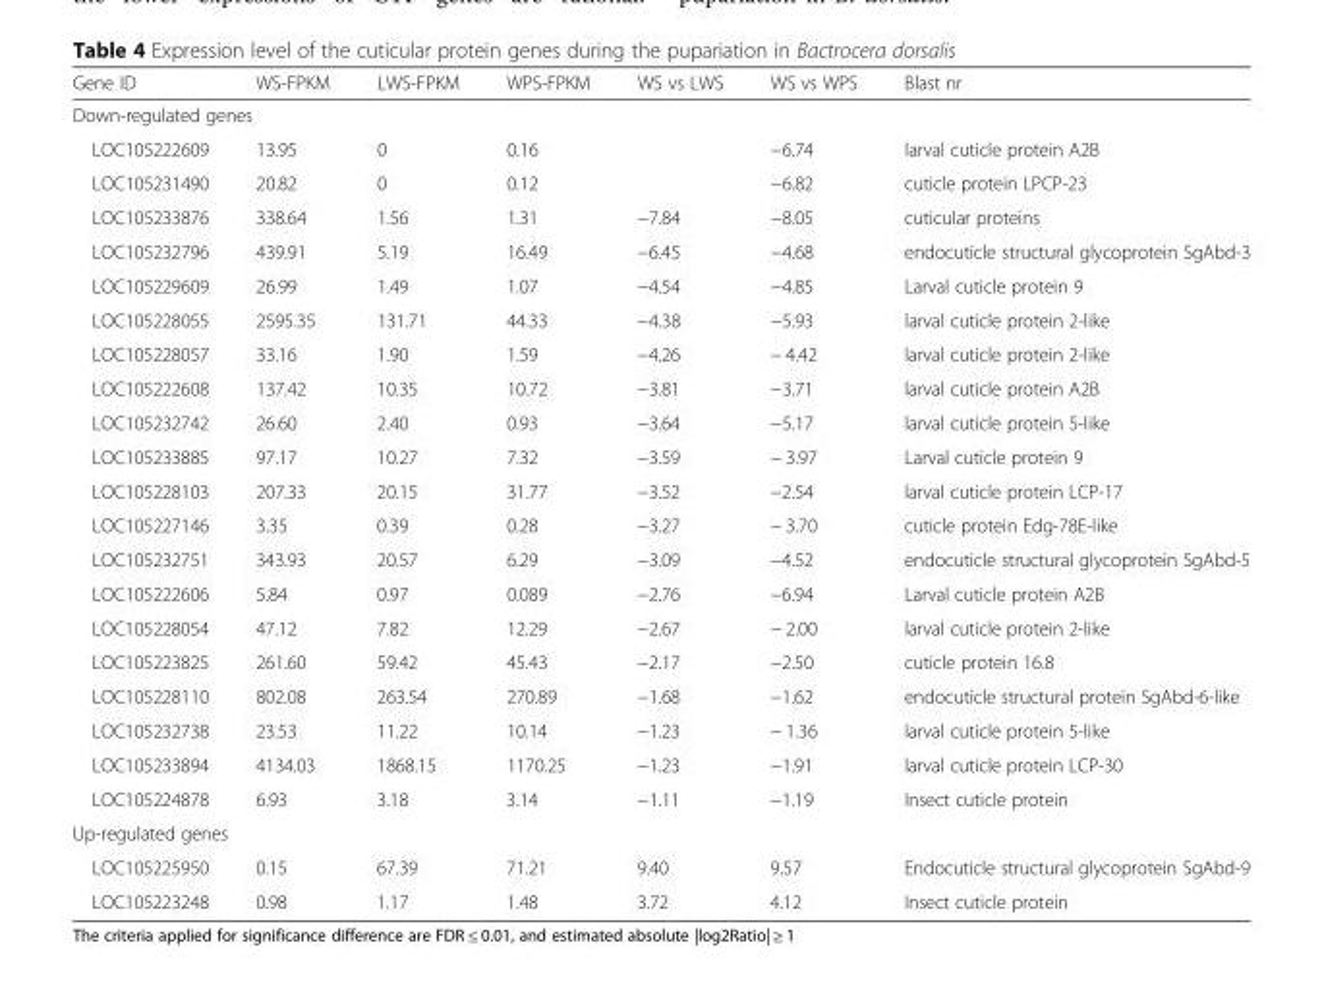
<table><thead><tr><td>Gene ID</td><td>WS-FPKM</td><td>LWS-FPKM</td><td>WPS-FPKM</td><td>WS vs LWS</td><td>WS vs WPS</td><td>Blast nr</td></tr></thead><tbody><tr><td colspan="7">Down-regulated genes</td></tr><tr><td>LOC105222609</td><td>13.95</td><td>0</td><td>0.16</td><td></td><td>−6.74</td><td>larval cuticle protein A2B</td></tr><tr><td>LOC105231490</td><td>20.82</td><td>0</td><td>0.12</td><td></td><td>−6.82</td><td>cuticle protein LPCP-23</td></tr><tr><td>LOC105233876</td><td>338.64</td><td>1.56</td><td>1.31</td><td>−7.84</td><td>−8.05</td><td>cuticular proteins</td></tr><tr><td>LOC105232796</td><td>439.91</td><td>5.19</td><td>16.49</td><td>−6.45</td><td>−4.68</td><td>endocuticle structural glycoprotein SgAbd-3</td></tr><tr><td>LOC105229609</td><td>26.99</td><td>1.49</td><td>1.07</td><td>−4.54</td><td>−4.85</td><td>Larval cuticle protein 9</td></tr><tr><td>LOC105228055</td><td>2595.35</td><td>131.71</td><td>44.33</td><td>−4.38</td><td>−5.93</td><td>larval cuticle protein 2-like</td></tr><tr><td>LOC105228057</td><td>33.16</td><td>1.90</td><td>1.59</td><td>−4.26</td><td>− 4.42</td><td>larval cuticle protein 2-like</td></tr><tr><td>LOC105222608</td><td>137.42</td><td>10.35</td><td>10.72</td><td>−3.81</td><td>−3.71</td><td>larval cuticle protein A2B</td></tr><tr><td>LOC105232742</td><td>26.60</td><td>2.40</td><td>0.93</td><td>−3.64</td><td>−5.17</td><td>larval cuticle protein 5-like</td></tr><tr><td>LOC105233885</td><td>97.17</td><td>10.27</td><td>7.32</td><td>−3.59</td><td>− 3.97</td><td>Larval cuticle protein 9</td></tr><tr><td>LOC105228103</td><td>207.33</td><td>20.15</td><td>31.77</td><td>−3.52</td><td>−2.54</td><td>larval cuticle protein LCP-17</td></tr><tr><td>LOC105227146</td><td>3.35</td><td>0.39</td><td>0.28</td><td>−3.27</td><td>− 3.70</td><td>cuticle protein Edg-78E-like</td></tr><tr><td>LOC105232751</td><td>343.93</td><td>20.57</td><td>6.29</td><td>−3.09</td><td>−4.52</td><td>endocuticle structural glycoprotein SgAbd-5</td></tr><tr><td>LOC105222606</td><td>5.84</td><td>0.97</td><td>0.089</td><td>−2.76</td><td>−6.94</td><td>Larval cuticle protein A2B</td></tr><tr><td>LOC105228054</td><td>47.12</td><td>7.82</td><td>12.29</td><td>−2.67</td><td>− 2.00</td><td>larval cuticle protein 2-like</td></tr><tr><td>LOC105223825</td><td>261.60</td><td>59.42</td><td>45.43</td><td>−2.17</td><td>−2.50</td><td>cuticle protein 16.8</td></tr><tr><td>LOC105228110</td><td>802.08</td><td>263.54</td><td>270.89</td><td>−1.68</td><td>−1.62</td><td>endocuticle structural protein SgAbd-6-like</td></tr><tr><td>LOC105232738</td><td>23.53</td><td>11.22</td><td>10.14</td><td>−1.23</td><td>− 1.36</td><td>larval cuticle protein 5-like</td></tr><tr><td>LOC105233894</td><td>4134.03</td><td>1868.15</td><td>1170.25</td><td>−1.23</td><td>−1.91</td><td>larval cuticle protein LCP-30</td></tr><tr><td>LOC105224878</td><td>6.93</td><td>3.18</td><td>3.14</td><td>−1.11</td><td>−1.19</td><td>Insect cuticle protein</td></tr><tr><td colspan="7">Up-regulated genes</td></tr><tr><td>LOC105225950</td><td>0.15</td><td>67.39</td><td>71.21</td><td>9.40</td><td>9.57</td><td>Endocuticle structural glycoprotein SgAbd-9</td></tr><tr><td>LOC105223248</td><td>0.98</td><td>1.17</td><td>1.48</td><td>3.72</td><td>4.12</td><td>Insect cuticle protein</td></tr></tbody></table>